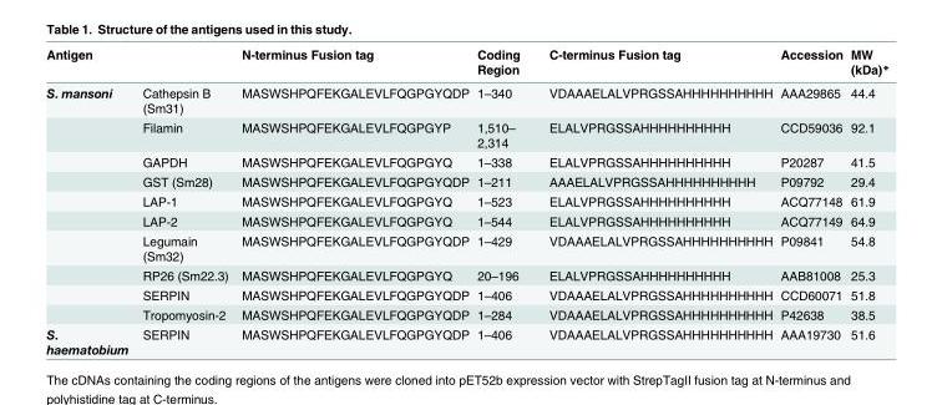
<table><thead><tr><td colspan="2">Antigen</td><td rowspan="2">N-terminus Fusion tag MASWSHPQFEKGALEVLFQGPGYQDP</td><td rowspan="2">Coding Region 1–340</td><td rowspan="2">C-terminus Fusion tag VDAAAELALVPRGSSAHHHHHHHHHH</td><td rowspan="2">Accession AAA29865</td><td rowspan="2">MW (kDa)* 44.4</td></tr><tr><td>S. mansoni</td><td>Cathepsin B (Sm31)</td></tr></thead><tbody><tr><td></td><td>Filamin</td><td>MASWSHPQFEKGALEVLFQGPGYP</td><td>1,510– 2,314</td><td>ELALVPRGSSAHHHHHHHHHH</td><td>CCD59036</td><td>92.1</td></tr><tr><td></td><td>GAPDH</td><td>MASWSHPQFEKGALEVLFQGPGYQ</td><td>1–338</td><td>ELALVPRGSSAHHHHHHHHHH</td><td>P20287</td><td>41.5</td></tr><tr><td></td><td>GST (Sm28)</td><td>MASWSHPQFEKGALEVLFQGPGYQDP</td><td>1–211</td><td>AAAELALVPRGSSAHHHHHHHHHH</td><td>P09792</td><td>29.4</td></tr><tr><td></td><td>LAP-1</td><td>MASWSHPQFEKGALEVLFQGPGYQ</td><td>1–523</td><td>ELALVPRGSSAHHHHHHHHHH</td><td>ACQ77148</td><td>61.9</td></tr><tr><td></td><td>LAP-2</td><td>MASWSHPQFEKGALEVLFQGPGYQ</td><td>1–544</td><td>ELALVPRGSSAHHHHHHHHHH</td><td>ACQ77149</td><td>64.9</td></tr><tr><td></td><td>Legumain (Sm32)</td><td>MASWSHPQFEKGALEVLFQGPGYQDP</td><td>1–429</td><td>VDAAAELALVPRGSSAHHHHHHHHHH</td><td>P09841</td><td>54.8</td></tr><tr><td></td><td>RP26 (Sm22.3)</td><td>MASWSHPQFEKGALEVLFQGPGYQ</td><td>20–196</td><td>ELALVPRGSSAHHHHHHHHHH</td><td>AAB81008</td><td>25.3</td></tr><tr><td></td><td>SERPIN</td><td>MASWSHPQFEKGALEVLFQGPGYQDP</td><td>1–406</td><td>VDAAAELALVPRGSSAHHHHHHHHHH</td><td>CCD60071</td><td>51.8</td></tr><tr><td></td><td>Tropomyosin-2</td><td>MASWSHPQFEKGALEVLFQGPGYQDP</td><td>1–284</td><td>VDAAAELALVPRGSSAHHHHHHHHHH</td><td>P42638</td><td>38.5</td></tr><tr><td>S. haematobium</td><td>SERPIN</td><td>MASWSHPQFEKGALEVLFQGPGYQDP</td><td>1–406</td><td>VDAAAELALVPRGSSAHHHHHHHHHH</td><td>AAA19730</td><td>51.6</td></tr></tbody></table>